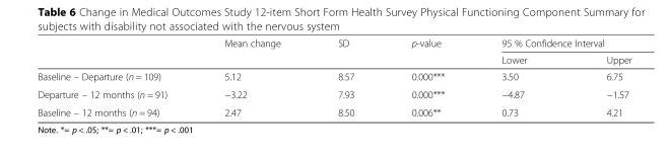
<table><thead><tr><td rowspan="2"></td><td rowspan="2">Mean change</td><td rowspan="2">SD</td><td rowspan="2">p-value</td><td colspan="2">95 % Confidence Interval</td></tr><tr><td>Lower</td><td>Upper</td></tr></thead><tbody><tr><td>Baseline – Departure (n = 109)</td><td>5.12</td><td>8.57</td><td>0.000***</td><td>3.50</td><td>6.75</td></tr><tr><td>Departure – 12 months (n = 91)</td><td>−3.22</td><td>7.93</td><td>0.000***</td><td>−4.87</td><td>−1.57</td></tr><tr><td>Baseline – 12 months (n = 94)</td><td>2.47</td><td>8.50</td><td>0.006**</td><td>0.73</td><td>4.21</td></tr></tbody></table>